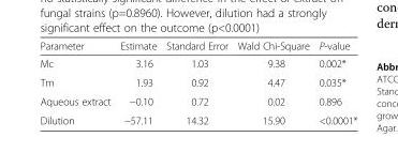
<table><thead><tr><td>Parameter</td><td>Estimate</td><td>Standard Error</td><td>Wald Chi-Square</td><td>P-value</td></tr></thead><tbody><tr><td>Mc</td><td>3.16</td><td>1.03</td><td>9.38</td><td>0.002*</td></tr><tr><td>Tm</td><td>1.93</td><td>0.92</td><td>4.47</td><td>0.035*</td></tr><tr><td>Aqueous extract</td><td>−0.10</td><td>0.72</td><td>0.02</td><td>0.896</td></tr><tr><td>Dilution</td><td>−57.11</td><td>14.32</td><td>15.90</td><td>&lt;0.0001*</td></tr></tbody></table>